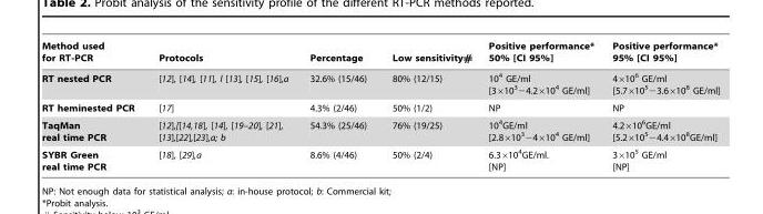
<table><thead><tr><td>Method used for RT-PCR</td><td>Protocols</td><td>Percentage</td><td>Low sensitivity#</td><td>Positive performance* 50% [CI 95%]</td><td>Positive performance* 95% [CI 95%]</td></tr></thead><tbody><tr><td>RT nested PCR</td><td>[12], [14], [11], l [13], [15], [16],a</td><td>32.6% (15/46)</td><td>80% (12/15)</td><td>10<sup>4</sup> GE/ml [3×10<sup>3</sup>−4.2×10<sup>4</sup> GE/ml]</td><td>4×10<sup>6</sup> GE/ml [5.7×10<sup>5</sup>−3.6×10<sup>8</sup> GE/ml]</td></tr><tr><td>RT heminested PCR</td><td>[17]</td><td>4.3% (2/46)</td><td>50% (1/2)</td><td>NP</td><td>NP</td></tr><tr><td>TaqMan real time PCR</td><td>[12],[[14,18], [14], [19–20], [21], [13],[22],[23],a; b</td><td>54.3% (25/46)</td><td>76% (19/25)</td><td>10<sup>4</sup>GE/ml [2.8×10<sup>3</sup>−4×10<sup>4</sup> GE/ml]</td><td>4.2×10<sup>6</sup>GE/ml [5.2×10<sup>5</sup>−4.4×10<sup>8</sup>GE/ml]</td></tr><tr><td>SYBR Green real time PCR</td><td>[18], [29],a</td><td>8.6% (4/46)</td><td>50% (2/4)</td><td>6.3×10<sup>4</sup>GE/ml. [NP]</td><td>3×10<sup>5</sup> GE/ml [NP]</td></tr></tbody></table>